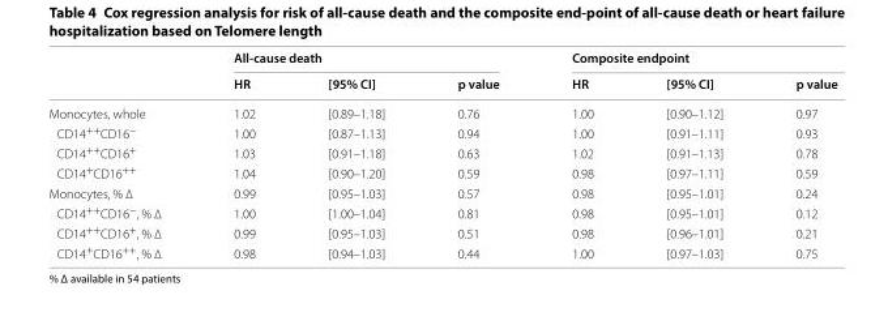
<table><thead><tr><td rowspan="2"></td><td colspan="3">All-cause death</td><td colspan="3">Composite endpoint</td></tr><tr><td>HR</td><td>[95% CI]</td><td>p value</td><td>HR</td><td>[95% CI]</td><td>p value</td></tr></thead><tbody><tr><td>Monocytes, whole</td><td>1.02</td><td>[0.89–1.18]</td><td>0.76</td><td>1.00</td><td>[0.90–1.12]</td><td>0.97</td></tr><tr><td>CD14<sup>++</sup>CD16<sup>−</sup></td><td>1.00</td><td>[0.87–1.13]</td><td>0.94</td><td>1.00</td><td>[0.91–1.11]</td><td>0.93</td></tr><tr><td>CD14<sup>++</sup>CD16<sup>+</sup></td><td>1.03</td><td>[0.91–1.18]</td><td>0.63</td><td>1.02</td><td>[0.91–1.13]</td><td>0.78</td></tr><tr><td>CD14<sup>+</sup>CD16<sup>++</sup></td><td>1.04</td><td>[0.90–1.20]</td><td>0.59</td><td>0.98</td><td>[0.97–1.11]</td><td>0.59</td></tr><tr><td>Monocytes, % ∆</td><td>0.99</td><td>[0.95–1.03]</td><td>0.57</td><td>0.98</td><td>[0.95–1.01]</td><td>0.24</td></tr><tr><td>CD14<sup>++</sup>CD16<sup>−</sup>, % ∆</td><td>1.00</td><td>[1.00–1.04]</td><td>0.81</td><td>0.98</td><td>[0.95–1.01]</td><td>0.12</td></tr><tr><td>CD14<sup>++</sup>CD16<sup>+</sup>, % ∆</td><td>0.99</td><td>[0.95–1.03]</td><td>0.51</td><td>0.98</td><td>[0.96–1.01]</td><td>0.21</td></tr><tr><td>CD14<sup>+</sup>CD16<sup>++</sup>, % ∆</td><td>0.98</td><td>[0.94–1.03]</td><td>0.44</td><td>1.00</td><td>[0.97–1.03]</td><td>0.75</td></tr></tbody></table>